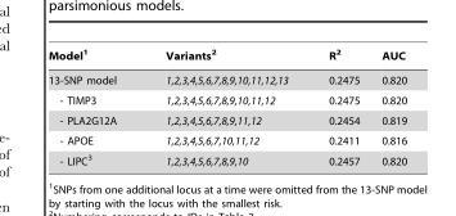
<table><thead><tr><td>Model<sup>1</sup></td><td>Variants<sup>2</sup></td><td>R<sup>2</sup></td><td>AUC</td></tr></thead><tbody><tr><td>13-SNP model</td><td>1,2,3,4,5,6,7,8,9,10,11,12,13</td><td>0.2475</td><td>0.820</td></tr><tr><td>- TIMP3</td><td>1,2,3,4,5,6,7,8,9,10,11,12</td><td>0.2475</td><td>0.820</td></tr><tr><td>- PLA2G12A</td><td>1,2,3,4,5,6,7,8,9,11,12</td><td>0.2454</td><td>0.819</td></tr><tr><td>- APOE</td><td>1,2,3,4,5,6,7,10,11,12</td><td>0.2411</td><td>0.816</td></tr><tr><td>- LIPC<sup>3</sup></td><td>1,2,3,4,5,6,7,8,9,10</td><td>0.2457</td><td>0.820</td></tr></tbody></table>